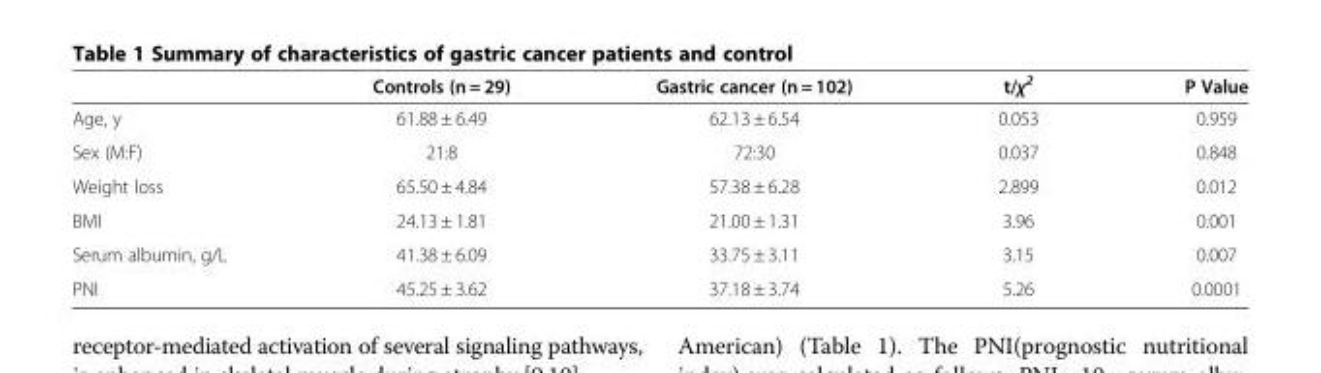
<table><thead><tr><td></td><td>Controls (n = 29)</td><td>Gastric cancer (n = 102)</td><td>t/χ<sup>2</sup></td><td>P Value</td></tr></thead><tbody><tr><td>Age, y</td><td>61.88 ± 6.49</td><td>62.13 ± 6.54</td><td>0.053</td><td>0.959</td></tr><tr><td>Sex (M:F)</td><td>21:8</td><td>72:30</td><td>0.037</td><td>0.848</td></tr><tr><td>Weight loss</td><td>65.50 ± 4.84</td><td>57.38 ± 6.28</td><td>2.899</td><td>0.012</td></tr><tr><td>BMI</td><td>24.13 ± 1.81</td><td>21.00 ± 1.31</td><td>3.96</td><td>0.001</td></tr><tr><td>Serum albumin, g/L</td><td>41.38 ± 6.09</td><td>33.75 ± 3.11</td><td>3.15</td><td>0.007</td></tr><tr><td>PNI</td><td>45.25 ± 3.62</td><td>37.18 ± 3.74</td><td>5.26</td><td>0.0001</td></tr></tbody></table>